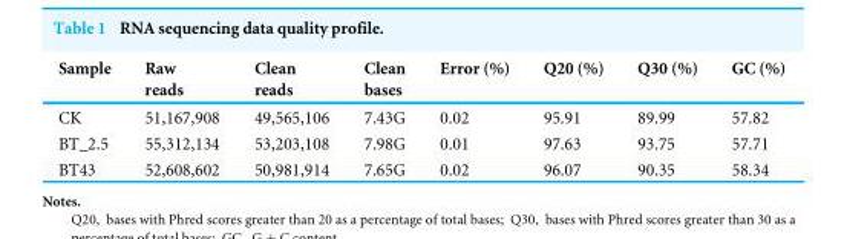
<table><thead><tr><td>Sample</td><td>Raw reads</td><td>Clean reads</td><td>Clean bases</td><td>Error (%)</td><td>Q20 (%)</td><td>Q30 (%)</td><td>GC (%)</td></tr></thead><tbody><tr><td>CK</td><td>51,167,908</td><td>49,565,106</td><td>7.43G</td><td>0.02</td><td>95.91</td><td>89.99</td><td>57.82</td></tr><tr><td>BT_2.5</td><td>55,312,134</td><td>53,203,108</td><td>7.98G</td><td>0.01</td><td>97.63</td><td>93.75</td><td>57.71</td></tr><tr><td>BT43</td><td>52,608,602</td><td>50,981,914</td><td>7.65G</td><td>0.02</td><td>96.07</td><td>90.35</td><td>58.34</td></tr></tbody></table>